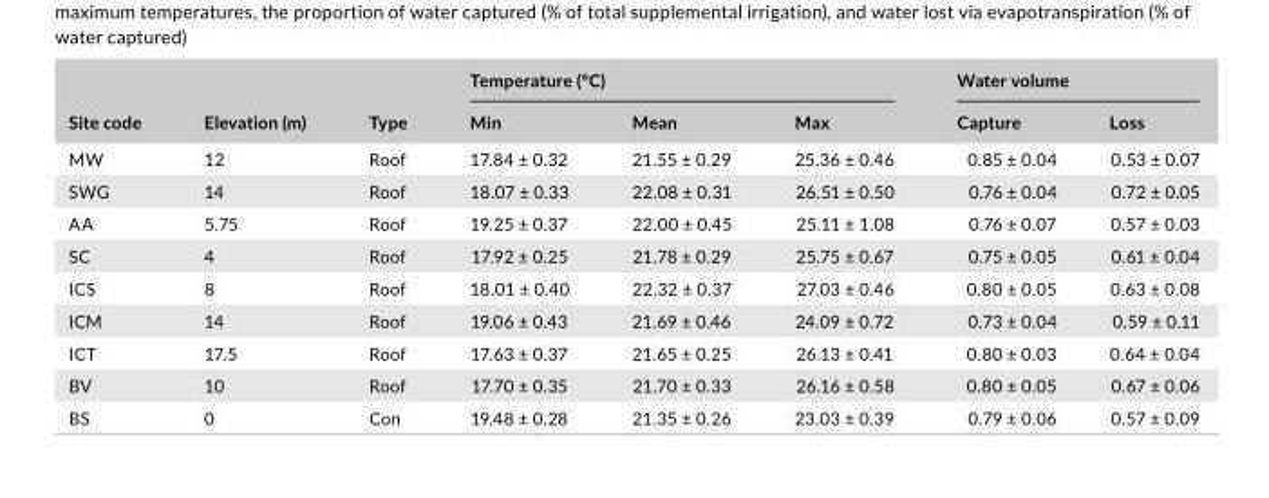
<table><thead><tr><td rowspan="2">Site code</td><td rowspan="2">Elevation (m)</td><td rowspan="2">Type</td><td colspan="3">Temperature (°C)</td><td colspan="2">Water volume</td></tr><tr><td>Min</td><td>Mean</td><td>Max</td><td>Capture</td><td>Loss</td></tr></thead><tbody><tr><td>MW</td><td>12</td><td>Roof</td><td>17.84 ± 0.32</td><td>21.55 ± 0.29</td><td>25.36 ± 0.46</td><td>0.85 ± 0.04</td><td>0.53 ± 0.07</td></tr><tr><td>SWG</td><td>14</td><td>Roof</td><td>18.07 ± 0.33</td><td>22.08 ± 0.31</td><td>26.51 ± 0.50</td><td>0.76 ± 0.04</td><td>0.72 ± 0.05</td></tr><tr><td>AA</td><td>5.75</td><td>Roof</td><td>19.25 ± 0.37</td><td>22.00 ± 0.45</td><td>25.11 ± 1.08</td><td>0.76 ± 0.07</td><td>0.57 ± 0.03</td></tr><tr><td>SC</td><td>4</td><td>Roof</td><td>17.92 ± 0.25</td><td>21.78 ± 0.29</td><td>25.75 ± 0.67</td><td>0.75 ± 0.05</td><td>0.61 ± 0.04</td></tr><tr><td>ICS</td><td>8</td><td>Roof</td><td>18.01 ± 0.40</td><td>22.32 ± 0.37</td><td>27.03 ± 0.46</td><td>0.80 ± 0.05</td><td>0.63 ± 0.08</td></tr><tr><td>ICM</td><td>14</td><td>Roof</td><td>19.06 ± 0.43</td><td>21.69 ± 0.46</td><td>24.09 ± 0.72</td><td>0.73 ± 0.04</td><td>0.59 ± 0.11</td></tr><tr><td>ICT</td><td>17.5</td><td>Roof</td><td>17.63 ± 0.37</td><td>21.65 ± 0.25</td><td>26.13 ± 0.41</td><td>0.80 ± 0.03</td><td>0.64 ± 0.04</td></tr><tr><td>BV</td><td>10</td><td>Roof</td><td>17.70 ± 0.35</td><td>21.70 ± 0.33</td><td>26.16 ± 0.58</td><td>0.80 ± 0.05</td><td>0.67 ± 0.06</td></tr><tr><td>BS</td><td>0</td><td>Con</td><td>19.48 ± 0.28</td><td>21.35 ± 0.26</td><td>23.03 ± 0.39</td><td>0.79 ± 0.06</td><td>0.57 ± 0.09</td></tr></tbody></table>